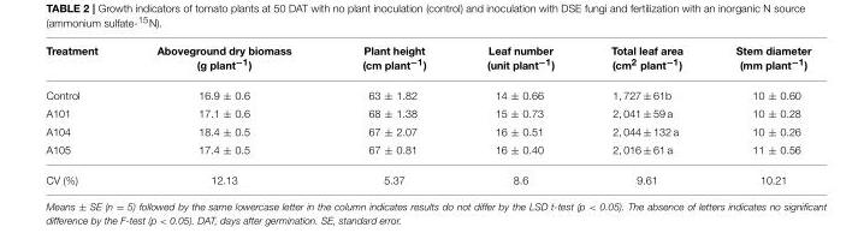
<table><thead><tr><td>Treatment</td><td>Aboveground dry biomass (g plant<sup>−1</sup>)</td><td>Plant height (cm plant<sup>−1</sup>)</td><td>Leaf number (unit plant<sup>−1</sup>)</td><td>Total leaf area (cm<sup>2</sup> plant<sup>−1</sup>)</td><td>Stem diameter (mm plant<sup>−1</sup>)</td></tr></thead><tbody><tr><td>Control</td><td>16.9 ± 0.6</td><td>63 ± 1.82</td><td>14 ± 0.66</td><td>1, 727 ± 61b</td><td>10 ± 0.60</td></tr><tr><td>A101</td><td>17.1 ± 0.6</td><td>68 ± 1.38</td><td>15 ± 0.73</td><td>2, 041 ± 59 a</td><td>10 ± 0.28</td></tr><tr><td>A104</td><td>18.4 ± 0.5</td><td>67 ± 2.07</td><td>16 ± 0.51</td><td>2, 044 ± 132 a</td><td>10 ± 0.26</td></tr><tr><td>A105</td><td>17.4 ± 0.5</td><td>67 ± 0.81</td><td>16 ± 0.40</td><td>2, 016 ± 61 a</td><td>11 ± 0.56</td></tr><tr><td>CV (%)</td><td>12.13</td><td>5.37</td><td>8.6</td><td>9.61</td><td>10.21</td></tr></tbody></table>